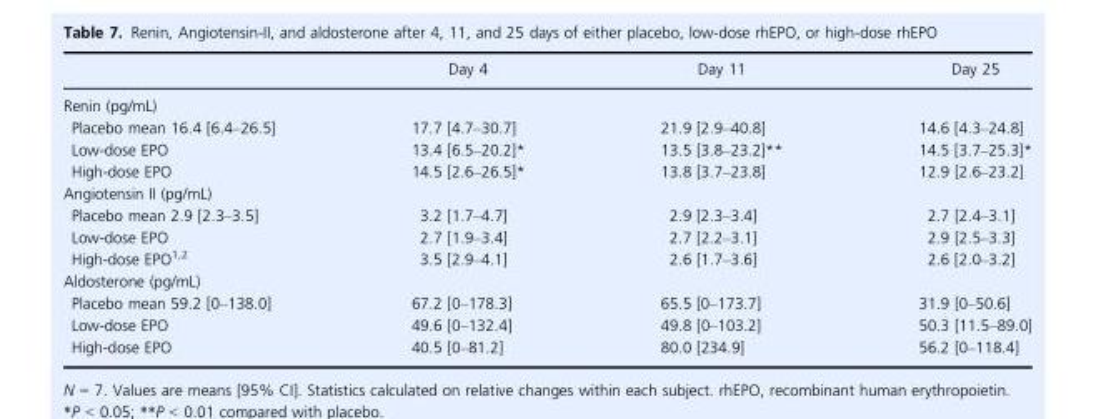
<table><thead><tr><td></td><td>Day 4</td><td>Day 11</td><td>Day 25</td></tr></thead><tbody><tr><td colspan="4">Renin (pg/mL)</td></tr><tr><td>Placebo mean 16.4 [6.4–26.5]</td><td>17.7 [4.7–30.7]</td><td>21.9 [2.9–40.8]</td><td>14.6 [4.3–24.8]</td></tr><tr><td>Low-dose EPO</td><td>13.4 [6.5–20.2]*</td><td>13.5 [3.8–23.2]**</td><td>14.5 [3.7–25.3]*</td></tr><tr><td>High-dose EPO</td><td>14.5 [2.6–26.5]*</td><td>13.8 [3.7–23.8]</td><td>12.9 [2.6–23.2]</td></tr><tr><td colspan="4">Angiotensin II (pg/mL)</td></tr><tr><td>Placebo mean 2.9 [2.3–3.5]</td><td>3.2 [1.7–4.7]</td><td>2.9 [2.3–3.4]</td><td>2.7 [2.4–3.1]</td></tr><tr><td>Low-dose EPO</td><td>2.7 [1.9–3.4]</td><td>2.7 [2.2–3.1]</td><td>2.9 [2.5–3.3]</td></tr><tr><td>High-dose EPO<sup>1,</sup>2</td><td>3.5 [2.9–4.1]</td><td>2.6 [1.7–3.6]</td><td>2.6 [2.0–3.2]</td></tr><tr><td colspan="4">Aldosterone (pg/mL)</td></tr><tr><td>Placebo mean 59.2 [0–138.0]</td><td>67.2 [0–178.3]</td><td>65.5 [0–173.7]</td><td>31.9 [0–50.6]</td></tr><tr><td>Low-dose EPO</td><td>49.6 [0–132.4]</td><td>49.8 [0–103.2]</td><td>50.3 [11.5–89.0]</td></tr><tr><td>High-dose EPO</td><td>40.5 [0–81.2]</td><td>80.0 [234.9]</td><td>56.2 [0–118.4]</td></tr></tbody></table>